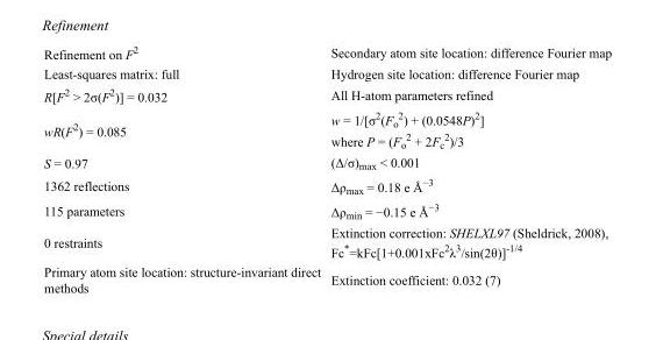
<table><tbody><tr><td>Refinement on F<sup>2</sup></td><td>Secondary atom site location: difference Fourier map</td></tr><tr><td>Least-squares matrix: full</td><td>Hydrogen site location: difference Fourier map</td></tr><tr><td>R[F<sup>2</sup> &gt; 2σ(F<sup>2</sup>)] = 0.032</td><td>All H-atom parameters refined</td></tr><tr><td>wR(F<sup>2</sup>) = 0.085</td><td>w = 1/[σ<sup>2</sup>(F<sub>o</sub> <sup>2</sup>) + (0.0548P)<sup>2</sup>] where P = (F<sub>o</sub> <sup>2</sup> + 2F<sub>c</sub> <sup>2</sup>)/3</td></tr><tr><td>S = 0.97</td><td>(Δ/σ)<sub>max</sub> &lt; 0.001</td></tr><tr><td>1362 reflections</td><td>Δρ<sub>max</sub> = 0.18 e Å<sup>−3</sup></td></tr><tr><td>115 parameters</td><td>Δρ<sub>min</sub> = −0.15 e Å<sup>−3</sup></td></tr><tr><td>0 restraints</td><td>Extinction correction: SHELXL97 (Sheldrick, 2008), Fc*=kFc[1+0.001xFc<sup>2</sup>λ<sup>3</sup>/sin(2θ)]<sup>-1/4</sup></td></tr><tr><td>Primary atom site location: structure-invariant direct methods</td><td>Extinction coefficient: 0.032 (7)</td></tr></tbody></table>